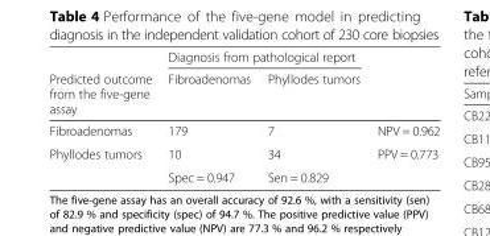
<table><thead><tr><td rowspan="2">Predicted outcome from the five-gene assay</td><td colspan="2">Diagnosis from pathological report</td><td rowspan="2"></td></tr><tr><td>Fibroadenomas</td><td>Phyllodes tumors</td></tr></thead><tbody><tr><td>Fibroadenomas</td><td>179</td><td>7</td><td>NPV = 0.962</td></tr><tr><td rowspan="2">Phyllodes tumors</td><td>10</td><td>34</td><td>PPV = 0.773</td></tr><tr><td>Spec = 0.947</td><td>Sen = 0.829</td><td></td></tr></tbody></table>